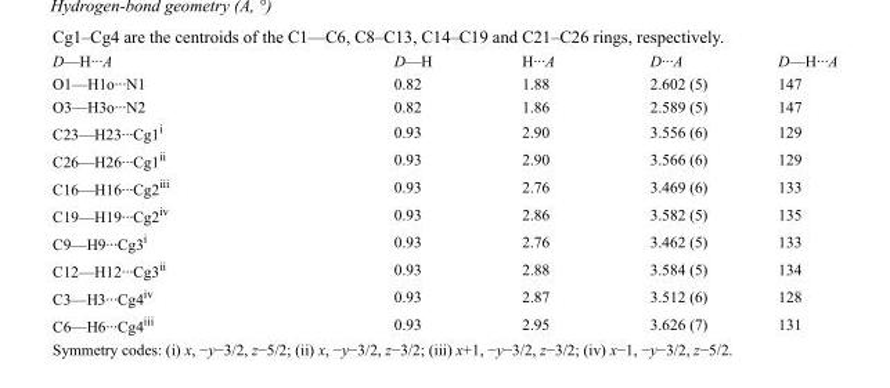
<table><tbody><tr><td>D—H···A</td><td>D—H</td><td>H···A</td><td>D···A</td><td>D—H···A</td></tr><tr><td>O1—H1o···N1</td><td>0.82</td><td>1.88</td><td>2.602 (5)</td><td>147</td></tr><tr><td>O3—H3o···N2</td><td>0.82</td><td>1.86</td><td>2.589 (5)</td><td>147</td></tr><tr><td>C23—H23···Cg1<sup>i</sup></td><td>0.93</td><td>2.90</td><td>3.556 (6)</td><td>129</td></tr><tr><td>C26—H26···Cg1<sup>ii</sup></td><td>0.93</td><td>2.90</td><td>3.566 (6)</td><td>129</td></tr><tr><td>C16—H16···Cg2<sup>iii</sup></td><td>0.93</td><td>2.76</td><td>3.469 (6)</td><td>133</td></tr><tr><td>C19—H19···Cg2<sup>iv</sup></td><td>0.93</td><td>2.86</td><td>3.582 (5)</td><td>135</td></tr><tr><td>C9—H9···Cg3<sup>i</sup></td><td>0.93</td><td>2.76</td><td>3.462 (5)</td><td>133</td></tr><tr><td>C12—H12···Cg3<sup>ii</sup></td><td>0.93</td><td>2.88</td><td>3.584 (5)</td><td>134</td></tr><tr><td>C3—H3···Cg4<sup>iv</sup></td><td>0.93</td><td>2.87</td><td>3.512 (6)</td><td>128</td></tr><tr><td>C6—H6···Cg4<sup>iii</sup></td><td>0.93</td><td>2.95</td><td>3.626 (7)</td><td>131</td></tr></tbody></table>